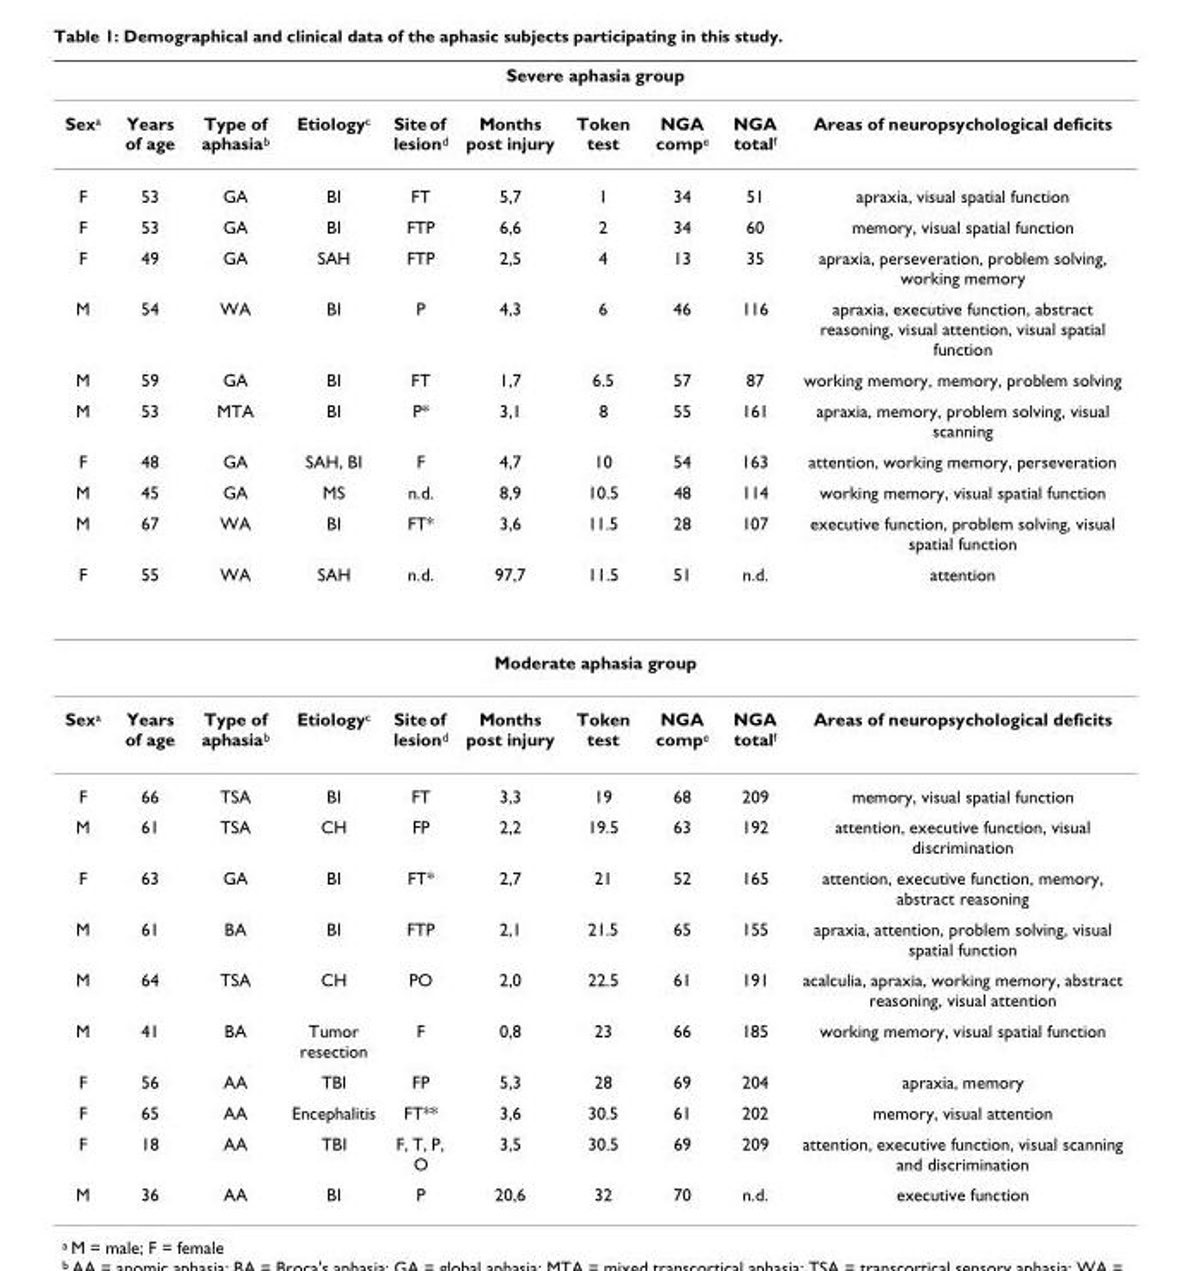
<table><thead><tr><td colspan="10">Severe aphasia group</td></tr><tr><td>Sex<sup>a</sup></td><td>Years of age</td><td>Type of aphasia<sup>b</sup></td><td>Etiology<sup>c</sup></td><td>Site of lesion<sup>d</sup></td><td>Months post injury</td><td>Token test</td><td>NGA comp<sup>e</sup></td><td>NGA total<sup>f</sup></td><td>Areas of neuropsychological deficits</td></tr></thead><tbody><tr><td>F</td><td>53</td><td>GA</td><td>BI</td><td>FT</td><td>5,7</td><td>1</td><td>34</td><td>51</td><td>apraxia, visual spatial function</td></tr><tr><td>F</td><td>53</td><td>GA</td><td>BI</td><td>FTP</td><td>6,6</td><td>2</td><td>34</td><td>60</td><td>memory, visual spatial function</td></tr><tr><td>F</td><td>49</td><td>GA</td><td>SAH</td><td>FTP</td><td>2,5</td><td>4</td><td>13</td><td>35</td><td>apraxia, perseveration, problem solving, working memory</td></tr><tr><td>M</td><td>54</td><td>WA</td><td>BI</td><td>P</td><td>4,3</td><td>6</td><td>46</td><td>116</td><td>apraxia, executive function, abstract reasoning, visual attention, visual spatial function</td></tr><tr><td>M</td><td>59</td><td>GA</td><td>BI</td><td>FT</td><td>1,7</td><td>6.5</td><td>57</td><td>87</td><td>working memory, memory, problem solving</td></tr><tr><td>M</td><td>53</td><td>MTA</td><td>BI</td><td>P*</td><td>3,1</td><td>8</td><td>55</td><td>161</td><td>apraxia, memory, problem solving, visual scanning</td></tr><tr><td>F</td><td>48</td><td>GA</td><td>SAH, BI</td><td>F</td><td>4,7</td><td>10</td><td>54</td><td>163</td><td>attention, working memory, perseveration</td></tr><tr><td>M</td><td>45</td><td>GA</td><td>MS</td><td>n.d.</td><td>8,9</td><td>10.5</td><td>48</td><td>114</td><td>working memory, visual spatial function</td></tr><tr><td>M</td><td>67</td><td>WA</td><td>BI</td><td>FT*</td><td>3,6</td><td>11.5</td><td>28</td><td>107</td><td>executive function, problem solving, visual spatial function</td></tr><tr><td>F</td><td>55</td><td>WA</td><td>SAH</td><td>n.d.</td><td>97,7</td><td>11.5</td><td>51</td><td>n.d.</td><td>attention</td></tr><tr><td colspan="10">Moderate aphasia group</td></tr><tr><td>Sex<sup>a</sup></td><td>Years of age</td><td>Type of aphasia<sup>b</sup></td><td>Etiology<sup>c</sup></td><td>Site of lesion<sup>d</sup></td><td>Months post injury</td><td>Token test</td><td>NGA comp<sup>e</sup></td><td>NGA total<sup>f</sup></td><td>Areas of neuropsychological deficits</td></tr><tr><td>F</td><td>66</td><td>TSA</td><td>BI</td><td>FT</td><td>3,3</td><td>19</td><td>68</td><td>209</td><td>memory, visual spatial function</td></tr><tr><td>M</td><td>61</td><td>TSA</td><td>CH</td><td>FP</td><td>2,2</td><td>19.5</td><td>63</td><td>192</td><td>attention, executive function, visual discrimination</td></tr><tr><td>F</td><td>63</td><td>GA</td><td>BI</td><td>FT*</td><td>2,7</td><td>21</td><td>52</td><td>165</td><td>attention, executive function, memory, abstract reasoning</td></tr><tr><td>M</td><td>61</td><td>BA</td><td>BI</td><td>FTP</td><td>2,1</td><td>21.5</td><td>65</td><td>155</td><td>apraxia, attention, problem solving, visual spatial function</td></tr><tr><td>M</td><td>64</td><td>TSA</td><td>CH</td><td>PO</td><td>2,0</td><td>22.5</td><td>61</td><td>191</td><td>acalculia, apraxia, working memory, abstract reasoning, visual attention</td></tr><tr><td>M</td><td>41</td><td>BA</td><td>Tumor resection</td><td>F</td><td>0,8</td><td>23</td><td>66</td><td>185</td><td>working memory, visual spatial function</td></tr><tr><td>F</td><td>56</td><td>AA</td><td>TBI</td><td>FP</td><td>5,3</td><td>28</td><td>69</td><td>204</td><td>apraxia, memory</td></tr><tr><td>F</td><td>65</td><td>AA</td><td>Encephalitis</td><td>FT**</td><td>3,6</td><td>30.5</td><td>61</td><td>202</td><td>memory, visual attention</td></tr><tr><td>F</td><td>18</td><td>AA</td><td>TBI</td><td>F, T, P, O</td><td>3,5</td><td>30.5</td><td>69</td><td>209</td><td>attention, executive function, visual scanning and discrimination</td></tr><tr><td>M</td><td>36</td><td>AA</td><td>BI</td><td>P</td><td>20,6</td><td>32</td><td>70</td><td>n.d.</td><td>executive function</td></tr></tbody></table>